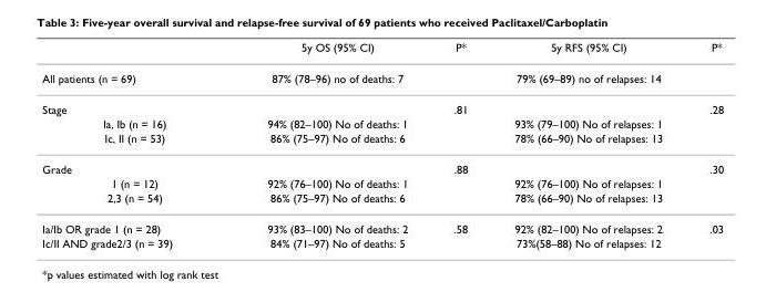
<table><thead><tr><td></td><td>5y OS (95% CI)</td><td>P*</td><td>5y RFS (95% CI)</td><td>P*</td></tr></thead><tbody><tr><td>All patients (n = 69)</td><td>87% (78–96) no of deaths: 7</td><td></td><td>79% (69–89) no of relapses: 14</td><td></td></tr><tr><td>Stage</td><td></td><td>.81</td><td></td><td>.28</td></tr><tr><td>Ia, Ib (n = 16)</td><td>94% (82–100) No of deaths: 1</td><td></td><td>93% (79–100) No of relapses: 1</td><td></td></tr><tr><td>Ic, II (n = 53)</td><td>86% (75–97) No of deaths: 6</td><td></td><td>78% (66–90) No of relapses: 13</td><td></td></tr><tr><td>Grade</td><td></td><td>.88</td><td></td><td>.30</td></tr><tr><td>1 (n = 12)</td><td>92% (76–100) No of deaths: 1</td><td></td><td>92% (76–100) No of relapses: 1</td><td></td></tr><tr><td>2,3 (n = 54)</td><td>86% (75–97) No of deaths: 6</td><td></td><td>78% (66–90) No of relapses: 13</td><td></td></tr><tr><td>Ia/Ib OR grade 1 (n = 28)</td><td>93% (83–100) No of deaths: 2</td><td>.58</td><td>92% (82–100) No of relapses: 2</td><td>.03</td></tr><tr><td>Ic/II AND grade2/3 (n = 39)</td><td>84% (71–97) No of deaths: 5</td><td></td><td>73%(58–88) No of relapses: 12</td><td></td></tr></tbody></table>